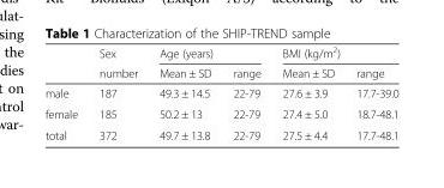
<table><thead><tr><td rowspan="2"></td><td rowspan="2">Sex number</td><td colspan="2">Age (years)</td><td colspan="2">BMI (kg/m<sup>2</sup>)</td></tr><tr><td>Mean ± SD</td><td>range</td><td>Mean ± SD</td><td>range</td></tr></thead><tbody><tr><td>male</td><td>187</td><td>49.3 ± 14.5</td><td>22-79</td><td>27.6 ± 3.9</td><td>17.7-39.0</td></tr><tr><td>female</td><td>185</td><td>50.2 ± 13</td><td>22-79</td><td>27.4 ± 5.0</td><td>18.7-48.1</td></tr><tr><td>total</td><td>372</td><td>49.7 ± 13.8</td><td>22-79</td><td>27.5 ± 4.4</td><td>17.7-48.1</td></tr></tbody></table>